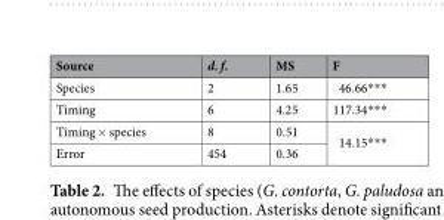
<table><thead><tr><td>Source</td><td>d. f.</td><td>MS</td><td>F</td></tr></thead><tbody><tr><td>Species</td><td>2</td><td>1.65</td><td>46.66***</td></tr><tr><td>Timing</td><td>6</td><td>4.25</td><td>117.34***</td></tr><tr><td>Timing × species</td><td>8</td><td>0.51</td><td rowspan="2">14.15***</td></tr><tr><td>Error</td><td>454</td><td>0.36</td></tr></tbody></table>